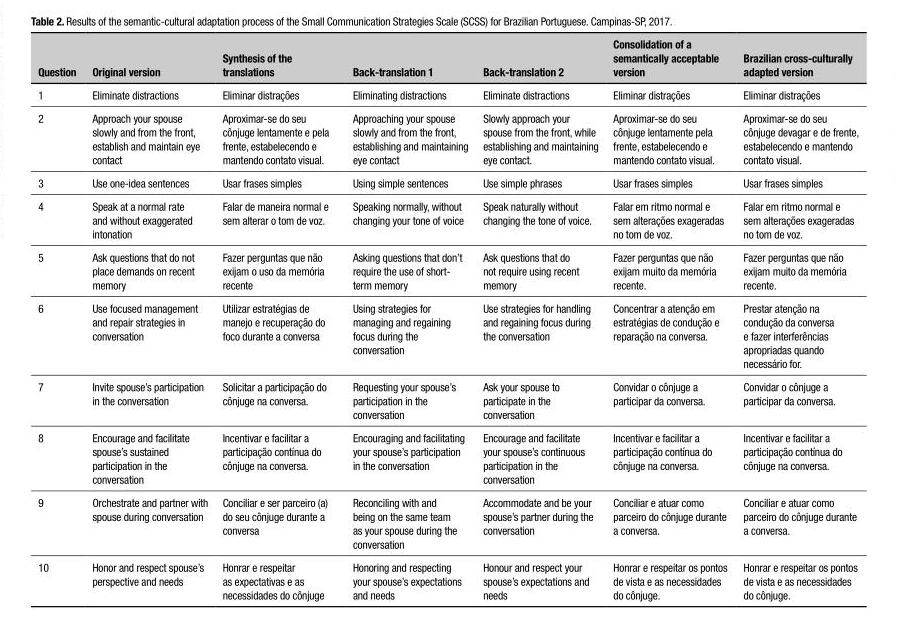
<table><thead><tr><td>Question</td><td>Original version</td><td>Synthesis of the translations</td><td>Back-translation 1</td><td>Back-translation 2</td><td>Consolidation of a semantically acceptable version</td><td>Brazilian cross-culturally adapted version</td></tr></thead><tbody><tr><td>1</td><td>Eliminate distractions</td><td>Eliminar distrações</td><td>Eliminating distractions</td><td>Eliminate distractions</td><td>Eliminar distrações</td><td>Eliminar distrações</td></tr><tr><td>2</td><td>Approach your spouse slowly and from the front, establish and maintain eye contact</td><td>Aproximar-se do seu cônjuge lentamente e pela frente, estabelecendo e mantendo contato visual.</td><td>Approaching your spouse slowly and from the front, establishing and maintaining eye contact</td><td>Slowly approach your spouse from the front, while establishing and maintaining eye contact.</td><td>Aproximar-se do seu cônjuge lentamente pela frente, estabelecendo e mantendo contato visual.</td><td>Aproximar-se do seu cônjuge devagar e de frente, estabelecendo e mantendo contato visual.</td></tr><tr><td>3</td><td>Use one-idea sentences</td><td>Usar frases simples</td><td>Using simple sentences</td><td>Use simple phrases</td><td>Usar frases simples</td><td>Usar frases simples</td></tr><tr><td>4</td><td>Speak at a normal rate and without exaggerated intonation</td><td>Falar de maneira normal e sem alterar o tom de voz.</td><td>Speaking normally, without changing your tone of voice</td><td>Speak naturally without changing the tone of voice.</td><td>Falar em ritmo normal e sem alterações exageradas no tom de voz.</td><td>Falar em ritmo normal e sem alterações exageradas no tom de voz.</td></tr><tr><td>5</td><td>Ask questions that do not place demands on recent memory</td><td>Fazer perguntas que não exijam o uso da memória recente</td><td>Asking questions that don’t require the use of short- term memory</td><td>Ask questions that do not require using recent memory</td><td>Fazer perguntas que não exijam muito da memória recente.</td><td>Fazer perguntas que não exijam muito da memória recente.</td></tr><tr><td>6</td><td>Use focused management and repair strategies in conversation</td><td>Utilizar estratégias de manejo e recuperação do foco durante a conversa</td><td>Using strategies for managing and regaining focus during the conversation</td><td>Use strategies for handling and regaining focus during the conversation</td><td>Concentrar a atenção em estratégias de condução e reparação na conversa.</td><td>Prestar atenção na condução da conversa e fazer interferências apropriadas quando necessário for.</td></tr><tr><td>7</td><td>Invite spouse’s participation in the conversation</td><td>Solicitar a participação do cônjuge na conversa.</td><td>Requesting your spouse’s participation in the conversation</td><td>Ask your spouse to participate in the conversation</td><td>Convidar o cônjuge a participar da conversa.</td><td>Convidar o cônjuge a participar da conversa.</td></tr><tr><td>8</td><td>Encourage and facilitate spouse’s sustained participation in the conversation</td><td>Incentivar e facilitar a participação contínua do cônjuge na conversa.</td><td>Encouraging and facilitating your spouse’s participation in the conversation</td><td>Encourage and facilitate your spouse’s continuous participation in the conversation</td><td>Incentivar e facilitar a participação contínua do cônjuge na conversa.</td><td>Incentivar e facilitar a participação contínua do cônjuge na conversa.</td></tr><tr><td>9</td><td>Orchestrate and partner with spouse during conversation</td><td>Conciliar e ser parceiro (a) do seu cônjuge durante a conversa</td><td>Reconciling with and being on the same team as your spouse during the conversation</td><td>Accommodate and be your spouse’s partner during the conversation</td><td>Conciliar e atuar como parceiro do cônjuge durante a conversa.</td><td>Conciliar e atuar como parceiro do cônjuge durante a conversa.</td></tr><tr><td>10</td><td>Honor and respect spouse’s perspective and needs</td><td>Honrar e respeitar as expectativas e as necessidades do cônjuge</td><td>Honoring and respecting your spouse’s expectations and needs</td><td>Honour and respect your spouse’s expectations and needs</td><td>Honrar e respeitar os pontos de vista e as necessidades do cônjuge.</td><td>Honrar e respeitar os pontos de vista e as necessidades do cônjuge.</td></tr></tbody></table>